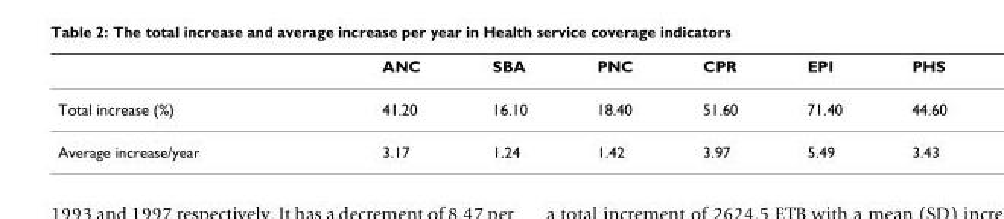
<table><thead><tr><td></td><td>ANC</td><td>SBA</td><td>PNC</td><td>CPR</td><td>EPI</td><td>PHS</td></tr></thead><tbody><tr><td>Total increase (%)</td><td>41.20</td><td>16.10</td><td>18.40</td><td>51.60</td><td>71.40</td><td>44.60</td></tr><tr><td>Average increase/year</td><td>3.17</td><td>1.24</td><td>1.42</td><td>3.97</td><td>5.49</td><td>3.43</td></tr></tbody></table>